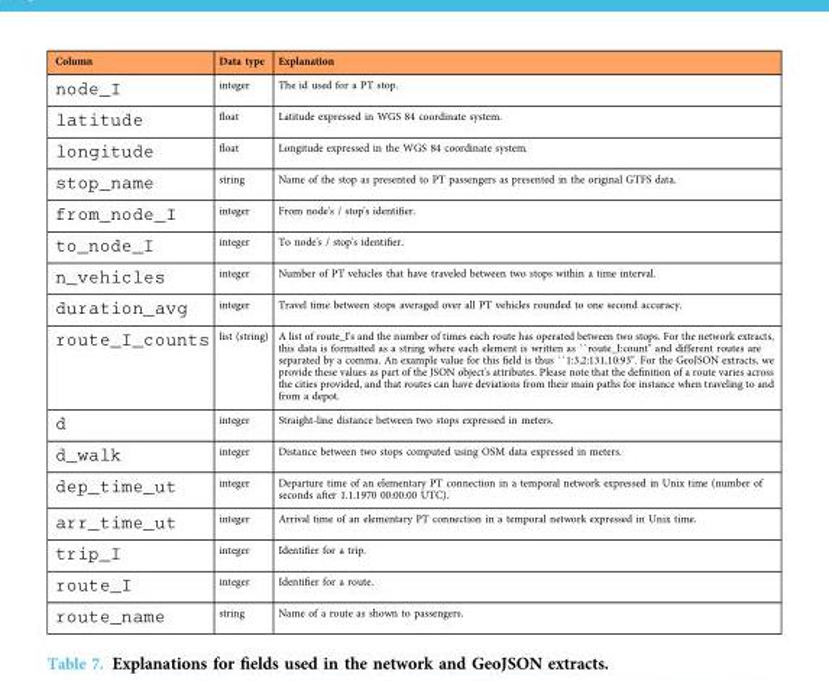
<table><thead><tr><td>Column</td><td>Data type</td><td>Explanation</td></tr></thead><tbody><tr><td>node_I</td><td>integer</td><td>The id used for a PT stop.</td></tr><tr><td>latitude</td><td>float</td><td>Latitude expressed in WGS 84 coordinate system.</td></tr><tr><td>longitude</td><td>float</td><td>Longitude expressed in the WGS 84 coordinate system.</td></tr><tr><td>stop_name</td><td>string</td><td>Name of the stop as presented to PT passengers as presented in the original GTFS data.</td></tr><tr><td>from_node_I</td><td>integer</td><td>From node&#x27;s / stop&#x27;s identifier.</td></tr><tr><td>to_node_I</td><td>integer</td><td>To node&#x27;s / stop&#x27;s identifier.</td></tr><tr><td>n_vehicles</td><td>integer</td><td>Number of PT vehicles that have traveled between two stops within a time interval.</td></tr><tr><td>duration_avg</td><td>integer</td><td>Travel time between stops averaged over all PT vehicles rounded to one second accuracy.</td></tr><tr><td>route_I_counts</td><td>list (string)</td><td>A list of route_I&#x27;s and the number of times each route has operated between two stops. For the network extracts, this data is formatted as a string where each element is written as ``route_I:count&#x27;&#x27; and different routes are separated by a comma. An example value for this field is thus ``1:3,2:131,10:93&#x27;&#x27;. For the GeoJSON extracts, we provide these values as part of the JSON object&#x27;s attributes. Please note that the definition of a route varies across the cities provided, and that routes can have deviations from their main paths for instance when traveling to and from a depot.</td></tr><tr><td>d</td><td>integer</td><td>Straight-line distance between two stops expressed in meters.</td></tr><tr><td>d_walk</td><td>integer</td><td>Distance between two stops computed using OSM data expressed in meters.</td></tr><tr><td>dep_time_ut</td><td>integer</td><td>Departure time of an elementary PT connection in a temporal network expressed in Unix time (number of seconds after 1.1.1970 00:00:00 UTC).</td></tr><tr><td>arr_time_ut</td><td>integer</td><td>Arrival time of an elementary PT connection in a temporal network expressed in Unix time.</td></tr><tr><td>trip_I</td><td>integer</td><td>Identifier for a trip.</td></tr><tr><td>route_I</td><td>integer</td><td>Identifier for a route.</td></tr><tr><td>route_name</td><td>string</td><td>Name of a route as shown to passengers.</td></tr></tbody></table>